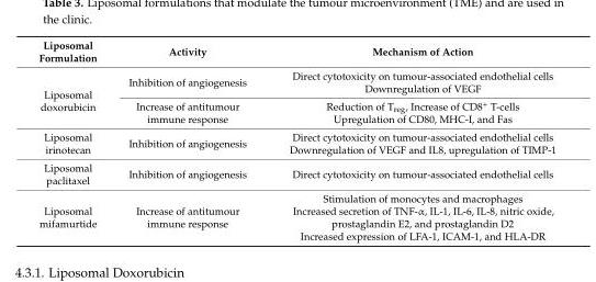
<table><thead><tr><td>Liposomal Formulation</td><td>Activity</td><td>Mechanism of Action</td></tr></thead><tbody><tr><td rowspan="2">Liposomal doxorubicin</td><td>Inhibition of angiogenesis</td><td>Direct cytotoxicity on tumour-associated endothelial cells Downregulation of VEGF</td></tr><tr><td>Increase of antitumour immune response</td><td>Reduction of T<sub>reg</sub>, Increase of CD8<sup>+</sup> T-cells Upregulation of CD80, MHC-I, and Fas</td></tr><tr><td>Liposomal irinotecan</td><td>Inhibition of angiogenesis</td><td>Direct cytotoxicity on tumour-associated endothelial cells Downregulation of VEGF and IL8, upregulation of TIMP-1</td></tr><tr><td>Liposomal paclitaxel</td><td>Inhibition of angiogenesis</td><td>Direct cytotoxicity on tumour-associated endothelial cells</td></tr><tr><td>Liposomal mifamurtide</td><td>Increase of antitumour immune response</td><td>Stimulation of monocytes and macrophages Increased secretion of TNF-α, IL-1, IL-6, IL-8, nitric oxide, prostaglandin E2, and prostaglandin D2 Increased expression of LFA-1, ICAM-1, and HLA-DR</td></tr></tbody></table>